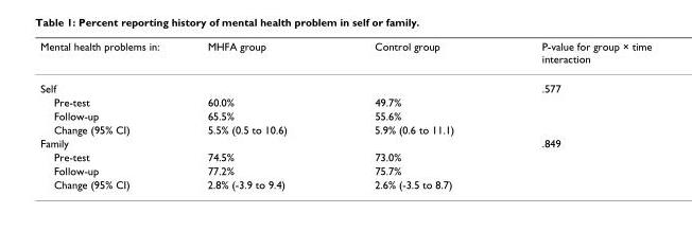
<table><thead><tr><td>Mental health problems in:</td><td>MHFA group</td><td>Control group</td><td>P-value for group × time interaction</td></tr></thead><tbody><tr><td>Self</td><td></td><td></td><td>.577</td></tr><tr><td>Pre-test</td><td>60.0%</td><td>49.7%</td><td></td></tr><tr><td>Follow-up</td><td>65.5%</td><td>55.6%</td><td></td></tr><tr><td>Change (95% CI)</td><td>5.5% (0.5 to 10.6)</td><td>5.9% (0.6 to 11.1)</td><td></td></tr><tr><td>Family</td><td></td><td></td><td>.849</td></tr><tr><td>Pre-test</td><td>74.5%</td><td>73.0%</td><td></td></tr><tr><td>Follow-up</td><td>77.2%</td><td>75.7%</td><td></td></tr><tr><td>Change (95% CI)</td><td>2.8% (-3.9 to 9.4)</td><td>2.6% (-3.5 to 8.7)</td><td></td></tr></tbody></table>